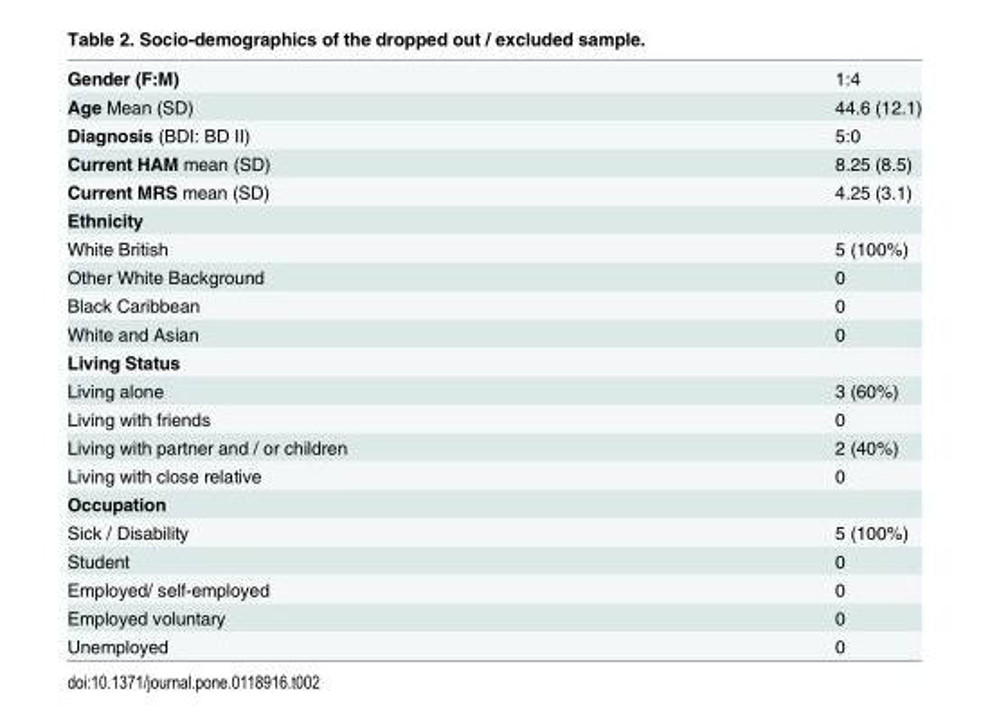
<table><tbody><tr><td>Gender (F:M)</td><td>1:4</td></tr><tr><td>Age Mean (SD)</td><td>44.6 (12.1)</td></tr><tr><td>Diagnosis (BDI: BD II)</td><td>5:0</td></tr><tr><td>Current HAM mean (SD)</td><td>8.25 (8.5)</td></tr><tr><td>Current MRS mean (SD)</td><td>4.25 (3.1)</td></tr><tr><td colspan="2">Ethnicity</td></tr><tr><td>White British</td><td>5 (100%)</td></tr><tr><td>Other White Background</td><td>0</td></tr><tr><td>Black Caribbean</td><td>0</td></tr><tr><td>White and Asian</td><td>0</td></tr><tr><td colspan="2">Living Status</td></tr><tr><td>Living alone</td><td>3 (60%)</td></tr><tr><td>Living with friends</td><td>0</td></tr><tr><td>Living with partner and / or children</td><td>2 (40%)</td></tr><tr><td>Living with close relative</td><td>0</td></tr><tr><td colspan="2">Occupation</td></tr><tr><td>Sick / Disability</td><td>5 (100%)</td></tr><tr><td>Student</td><td>0</td></tr><tr><td>Employed/ self-employed</td><td>0</td></tr><tr><td>Employed voluntary</td><td>0</td></tr><tr><td>Unemployed</td><td>0</td></tr></tbody></table>